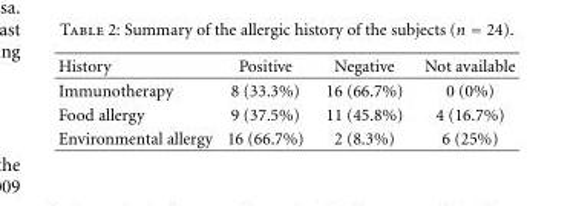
<table><thead><tr><td>History</td><td>Positive</td><td>Negative</td><td>Not available</td></tr></thead><tbody><tr><td>Immunotherapy</td><td>8 (33.3%)</td><td>16 (66.7%)</td><td>0 (0%)</td></tr><tr><td>Food allergy</td><td>9 (37.5%)</td><td>11 (45.8%)</td><td>4 (16.7%)</td></tr><tr><td>Environmental allergy</td><td>16 (66.7%)</td><td>2 (8.3%)</td><td>6 (25%)</td></tr></tbody></table>